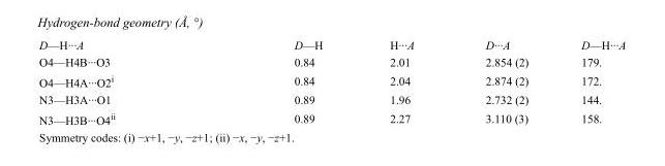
<table><tbody><tr><td>D—H···A</td><td>D—H</td><td>H···A</td><td>D···A</td><td>D—H···A</td></tr><tr><td>O4—H4B···O3</td><td>0.84</td><td>2.01</td><td>2.854 (2)</td><td>179.</td></tr><tr><td>O4—H4A···O2<sup>i</sup></td><td>0.84</td><td>2.04</td><td>2.874 (2)</td><td>172.</td></tr><tr><td>N3—H3A···O1</td><td>0.89</td><td>1.96</td><td>2.732 (2)</td><td>144.</td></tr><tr><td>N3—H3B···O4<sup>ii</sup></td><td>0.89</td><td>2.27</td><td>3.110 (3)</td><td>158.</td></tr></tbody></table>